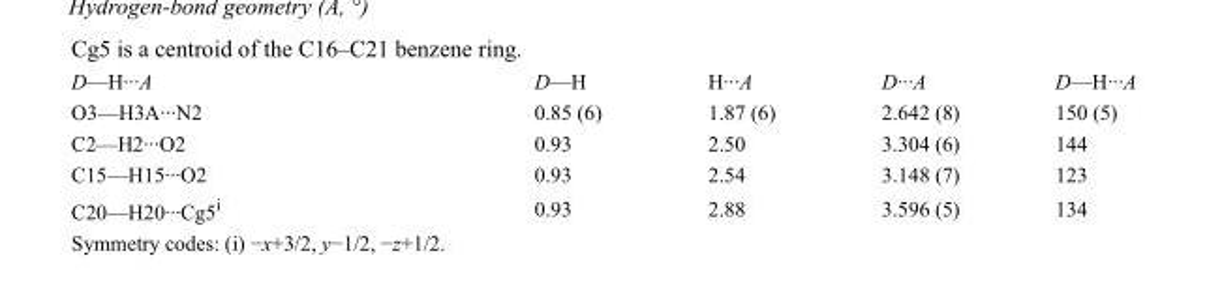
<table><tbody><tr><td>D—H···A</td><td>D—H</td><td>H···A</td><td>D···A</td><td>D—H···A</td></tr><tr><td>O3—H3A···N2</td><td>0.85 (6)</td><td>1.87 (6)</td><td>2.642 (8)</td><td>150 (5)</td></tr><tr><td>C2—H2···O2</td><td>0.93</td><td>2.50</td><td>3.304 (6)</td><td>144</td></tr><tr><td>C15—H15···O2</td><td>0.93</td><td>2.54</td><td>3.148 (7)</td><td>123</td></tr><tr><td>C20—H20···Cg5<sup>i</sup></td><td>0.93</td><td>2.88</td><td>3.596 (5)</td><td>134</td></tr></tbody></table>